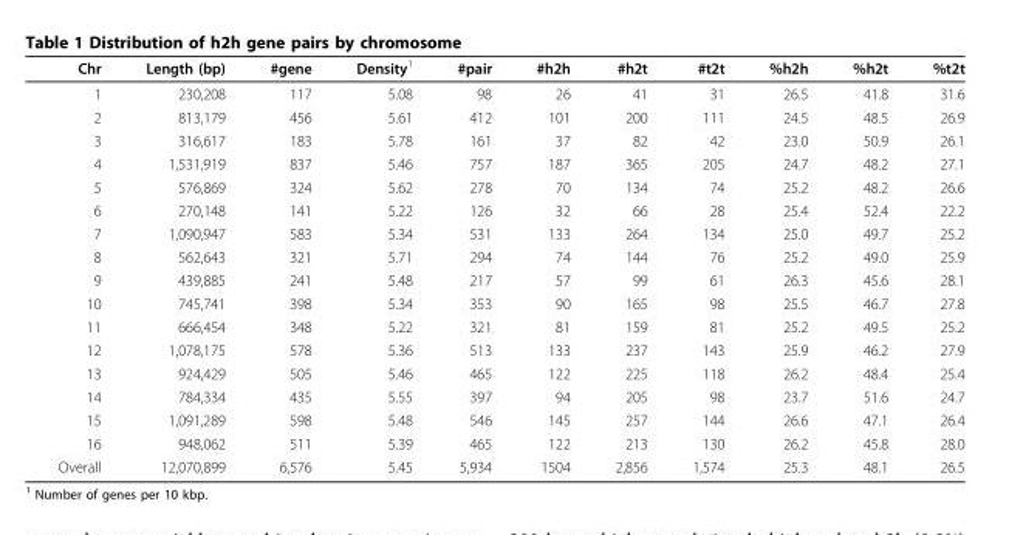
<table><thead><tr><td>Chr</td><td>Length (bp)</td><td>#gene</td><td>Density<sup>1</sup></td><td>#pair</td><td>#h2h</td><td>#h2t</td><td>#t2t</td><td>%h2h</td><td>%h2t</td><td>%t2t</td></tr></thead><tbody><tr><td>1</td><td>230,208</td><td>117</td><td>5.08</td><td>98</td><td>26</td><td>41</td><td>31</td><td>26.5</td><td>41.8</td><td>31.6</td></tr><tr><td>2</td><td>813,179</td><td>456</td><td>5.61</td><td>412</td><td>101</td><td>200</td><td>111</td><td>24.5</td><td>48.5</td><td>26.9</td></tr><tr><td>3</td><td>316,617</td><td>183</td><td>5.78</td><td>161</td><td>37</td><td>82</td><td>42</td><td>23.0</td><td>50.9</td><td>26.1</td></tr><tr><td>4</td><td>1,531,919</td><td>837</td><td>5.46</td><td>757</td><td>187</td><td>365</td><td>205</td><td>24.7</td><td>48.2</td><td>27.1</td></tr><tr><td>5</td><td>576,869</td><td>324</td><td>5.62</td><td>278</td><td>70</td><td>134</td><td>74</td><td>25.2</td><td>48.2</td><td>26.6</td></tr><tr><td>6</td><td>270,148</td><td>141</td><td>5.22</td><td>126</td><td>32</td><td>66</td><td>28</td><td>25.4</td><td>52.4</td><td>22.2</td></tr><tr><td>7</td><td>1,090,947</td><td>583</td><td>5.34</td><td>531</td><td>133</td><td>264</td><td>134</td><td>25.0</td><td>49.7</td><td>25.2</td></tr><tr><td>8</td><td>562,643</td><td>321</td><td>5.71</td><td>294</td><td>74</td><td>144</td><td>76</td><td>25.2</td><td>49.0</td><td>25.9</td></tr><tr><td>9</td><td>439,885</td><td>241</td><td>5.48</td><td>217</td><td>57</td><td>99</td><td>61</td><td>26.3</td><td>45.6</td><td>28.1</td></tr><tr><td>10</td><td>745,741</td><td>398</td><td>5.34</td><td>353</td><td>90</td><td>165</td><td>98</td><td>25.5</td><td>46.7</td><td>27.8</td></tr><tr><td>11</td><td>666,454</td><td>348</td><td>5.22</td><td>321</td><td>81</td><td>159</td><td>81</td><td>25.2</td><td>49.5</td><td>25.2</td></tr><tr><td>12</td><td>1,078,175</td><td>578</td><td>5.36</td><td>513</td><td>133</td><td>237</td><td>143</td><td>25.9</td><td>46.2</td><td>27.9</td></tr><tr><td>13</td><td>924,429</td><td>505</td><td>5.46</td><td>465</td><td>122</td><td>225</td><td>118</td><td>26.2</td><td>48.4</td><td>25.4</td></tr><tr><td>14</td><td>784,334</td><td>435</td><td>5.55</td><td>397</td><td>94</td><td>205</td><td>98</td><td>23.7</td><td>51.6</td><td>24.7</td></tr><tr><td>15</td><td>1,091,289</td><td>598</td><td>5.48</td><td>546</td><td>145</td><td>257</td><td>144</td><td>26.6</td><td>47.1</td><td>26.4</td></tr><tr><td>16</td><td>948,062</td><td>511</td><td>5.39</td><td>465</td><td>122</td><td>213</td><td>130</td><td>26.2</td><td>45.8</td><td>28.0</td></tr><tr><td>Overall</td><td>12,070,899</td><td>6,576</td><td>5.45</td><td>5,934</td><td>1504</td><td>2,856</td><td>1,574</td><td>25.3</td><td>48.1</td><td>26.5</td></tr></tbody></table>